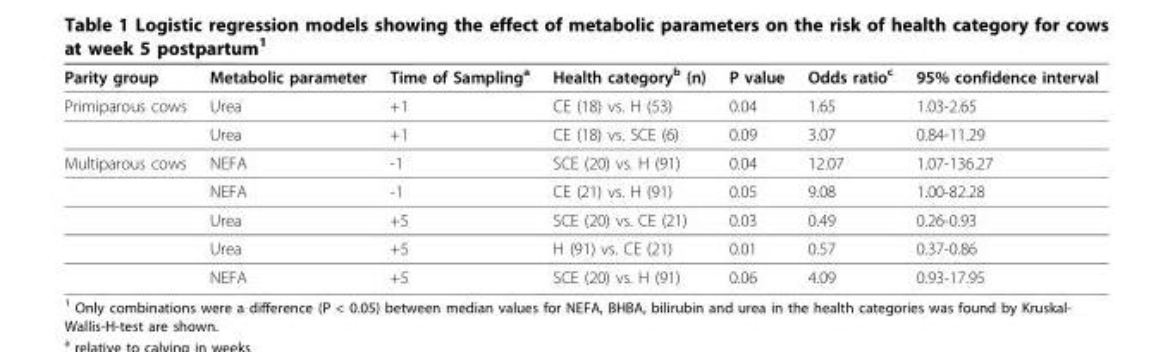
<table><thead><tr><td>Parity group</td><td>Metabolic parameter</td><td>Time of Sampling<sup>a</sup></td><td>Health category<sup>b</sup> (n)</td><td>P value</td><td>Odds ratio<sup>c</sup></td><td>95% confidence interval</td></tr></thead><tbody><tr><td rowspan="2">Primiparous cows</td><td>Urea</td><td>+1</td><td>CE (18) vs. H (53)</td><td>0.04</td><td>1.65</td><td>1.03-2.65</td></tr><tr><td>Urea</td><td>+1</td><td>CE (18) vs. SCE (6)</td><td>0.09</td><td>3.07</td><td>0.84-11.29</td></tr><tr><td rowspan="5">Multiparous cows</td><td>NEFA</td><td>-1</td><td>SCE (20) vs. H (91)</td><td>0.04</td><td>12.07</td><td>1.07-136.27</td></tr><tr><td>NEFA</td><td>-1</td><td>CE (21) vs. H (91)</td><td>0.05</td><td>9.08</td><td>1.00-82.28</td></tr><tr><td>Urea</td><td>+5</td><td>SCE (20) vs. CE (21)</td><td>0.03</td><td>0.49</td><td>0.26-0.93</td></tr><tr><td>Urea</td><td>+5</td><td>H (91) vs. CE (21)</td><td>0.01</td><td>0.57</td><td>0.37-0.86</td></tr><tr><td>NEFA</td><td>+5</td><td>SCE (20) vs. H (91)</td><td>0.06</td><td>4.09</td><td>0.93-17.95</td></tr></tbody></table>